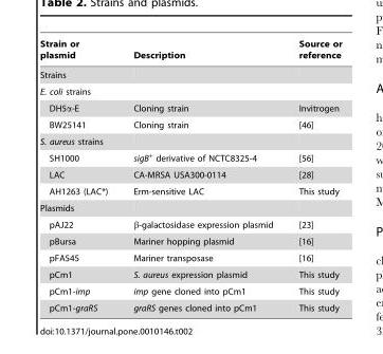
<table><thead><tr><td>Strain or plasmid</td><td>Description</td><td>Source or reference</td></tr></thead><tbody><tr><td colspan="3">Strains</td></tr><tr><td colspan="3">E. coli strains</td></tr><tr><td>DH5α-E</td><td>Cloning strain</td><td>Invitrogen</td></tr><tr><td>BW25141</td><td>Cloning strain</td><td>[46]</td></tr><tr><td colspan="3">S. aureus strains</td></tr><tr><td>SH1000</td><td>sigB<sup>+</sup> derivative of NCTC8325-4</td><td>[56]</td></tr><tr><td>LAC</td><td>CA-MRSA USA300-0114</td><td>[28]</td></tr><tr><td>AH1263 (LAC*)</td><td>Erm-sensitive LAC</td><td>This study</td></tr><tr><td colspan="3">Plasmids</td></tr><tr><td>pAJ22</td><td>β-galactosidase expression plasmid</td><td>[23]</td></tr><tr><td>pBursa</td><td>Mariner hopping plasmid</td><td>[16]</td></tr><tr><td>pFA545</td><td>Mariner transposase</td><td>[16]</td></tr><tr><td>pCm1</td><td>S. aureus expression plasmid</td><td>This study</td></tr><tr><td>pCm1-imp</td><td>imp gene cloned into pCm1</td><td>This study</td></tr><tr><td>pCm1-graRS</td><td>graRS genes cloned into pCm1</td><td>This study</td></tr></tbody></table>